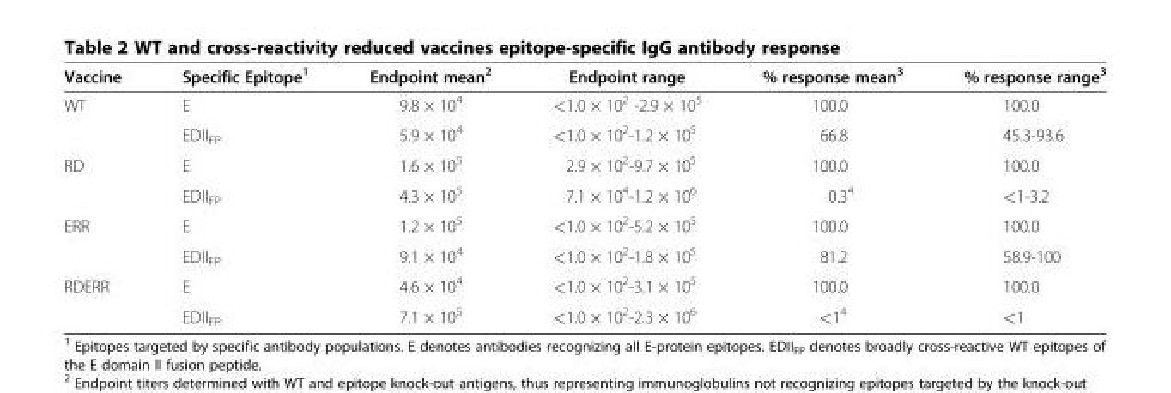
<table><thead><tr><td>Vaccine</td><td>Specific Epitope<sup>1</sup></td><td>Endpoint mean<sup>2</sup></td><td>Endpoint range</td><td>% response mean<sup>3</sup></td><td>% response range<sup>3</sup></td></tr></thead><tbody><tr><td rowspan="2">WT</td><td>E</td><td>9.8 × 10<sup>4</sup></td><td>&lt;1.0 × 10<sup>2</sup> -2.9 × 10<sup>5</sup></td><td>100.0</td><td>100.0</td></tr><tr><td>EDII<sub>FP</sub></td><td>5.9 × 10<sup>4</sup></td><td>&lt;1.0 × 10<sup>2</sup>-1.2 × 10<sup>5</sup></td><td>66.8</td><td>45.3-93.6</td></tr><tr><td rowspan="2">RD</td><td>E</td><td>1.6 × 10<sup>5</sup></td><td>2.9 × 10<sup>2</sup>-9.7 × 10<sup>5</sup></td><td>100.0</td><td>100.0</td></tr><tr><td>EDII<sub>FP</sub></td><td>4.3 × 10<sup>5</sup></td><td>7.1 × 10<sup>4</sup>-1.2 × 10<sup>6</sup></td><td>0.3<sup>4</sup></td><td>&lt;1-3.2</td></tr><tr><td rowspan="2">ERR</td><td>E</td><td>1.2 × 10<sup>5</sup></td><td>&lt;1.0 × 10<sup>2</sup>-5.2 × 10<sup>5</sup></td><td>100.0</td><td>100.0</td></tr><tr><td>EDII<sub>FP</sub></td><td>9.1 × 10<sup>4</sup></td><td>&lt;1.0 × 10<sup>2</sup>-1.8 × 10<sup>5</sup></td><td>81.2</td><td>58.9-100</td></tr><tr><td rowspan="2">RDERR</td><td>E</td><td>4.6 × 10<sup>4</sup></td><td>&lt;1.0 × 10<sup>2</sup>-3.1 × 10<sup>5</sup></td><td>100.0</td><td>100.0</td></tr><tr><td>EDII<sub>FP</sub></td><td>7.1 × 10<sup>5</sup></td><td>&lt;1.0 × 10<sup>2</sup>-2.3 × 10<sup>6</sup></td><td>&lt;1<sup>4</sup></td><td>&lt;1</td></tr></tbody></table>